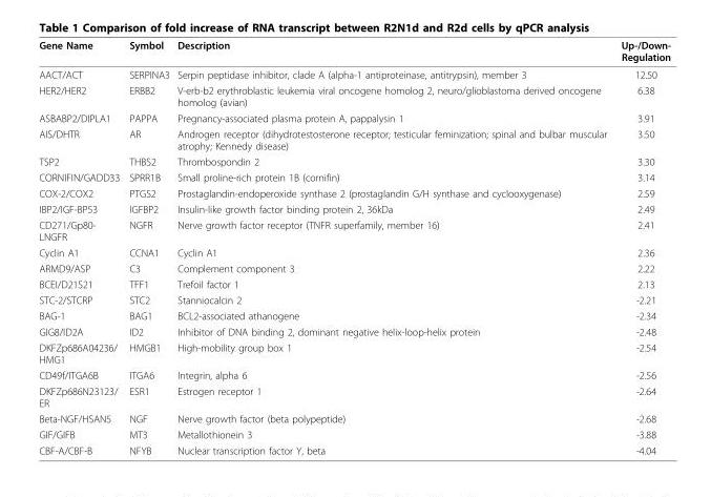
<table><thead><tr><td>Gene Name</td><td>Symbol</td><td>Description</td><td>Up-/Down- Regulation</td></tr></thead><tbody><tr><td>AACT/ACT</td><td>SERPINA3</td><td>Serpin peptidase inhibitor, clade A (alpha-1 antiproteinase, antitrypsin), member 3</td><td>12.50</td></tr><tr><td>HER2/HER2</td><td>ERBB2</td><td>V-erb-b2 erythroblastic leukemia viral oncogene homolog 2, neuro/glioblastoma derived oncogene homolog (avian)</td><td>6.38</td></tr><tr><td>ASBABP2/DIPLA1</td><td>PAPPA</td><td>Pregnancy-associated plasma protein A, pappalysin 1</td><td>3.91</td></tr><tr><td>AIS/DHTR</td><td>AR</td><td>Androgen receptor (dihydrotestosterone receptor; testicular feminization; spinal and bulbar muscular atrophy; Kennedy disease)</td><td>3.50</td></tr><tr><td>TSP2</td><td>THBS2</td><td>Thrombospondin 2</td><td>3.30</td></tr><tr><td>CORNIFIN/GADD33</td><td>SPRR1B</td><td>Small proline-rich protein 1B (cornifin)</td><td>3.14</td></tr><tr><td>COX-2/COX2</td><td>PTGS2</td><td>Prostaglandin-endoperoxide synthase 2 (prostaglandin G/H synthase and cyclooxygenase)</td><td>2.59</td></tr><tr><td>IBP2/IGF-BP53</td><td>IGFBP2</td><td>Insulin-like growth factor binding protein 2, 36kDa</td><td>2.49</td></tr><tr><td>CD271/Gp80- LNGFR</td><td>NGFR</td><td>Nerve growth factor receptor (TNFR superfamily, member 16)</td><td>2.41</td></tr><tr><td>Cyclin A1</td><td>CCNA1</td><td>Cyclin A1</td><td>2.36</td></tr><tr><td>ARMD9/ASP</td><td>C3</td><td>Complement component 3</td><td>2.22</td></tr><tr><td>BCEI/D21S21</td><td>TFF1</td><td>Trefoil factor 1</td><td>2.13</td></tr><tr><td>STC-2/STCRP</td><td>STC2</td><td>Stanniocalcin 2</td><td>-2.21</td></tr><tr><td>BAG-1</td><td>BAG1</td><td>BCL2-associated athanogene</td><td>-2.34</td></tr><tr><td>GIG8/ID2A</td><td>ID2</td><td>Inhibitor of DNA binding 2, dominant negative helix-loop-helix protein</td><td>-2.48</td></tr><tr><td>DKFZp686A04236/ HMG1</td><td>HMGB1</td><td>High-mobility group box 1</td><td>-2.54</td></tr><tr><td>CD49f/ITGA6B</td><td>ITGA6</td><td>Integrin, alpha 6</td><td>-2.56</td></tr><tr><td>DKFZp686N23123/ ER</td><td>ESR1</td><td>Estrogen receptor 1</td><td>-2.64</td></tr><tr><td>Beta-NGF/HSAN5</td><td>NGF</td><td>Nerve growth factor (beta polypeptide)</td><td>-2.68</td></tr><tr><td>GIF/GIFB</td><td>MT3</td><td>Metallothionein 3</td><td>-3.88</td></tr><tr><td>CBF-A/CBF-B</td><td>NFYB</td><td>Nuclear transcription factor Y, beta</td><td>-4.04</td></tr></tbody></table>